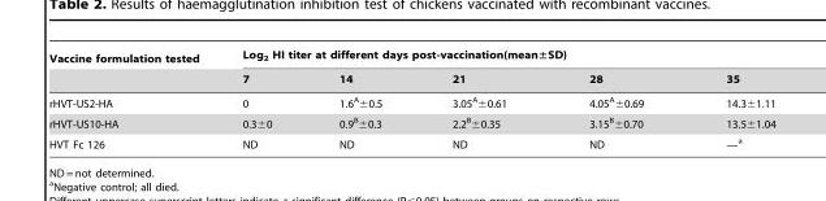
<table><thead><tr><td rowspan="2">Vaccine formulation tested</td><td colspan="5">Log<sub>2</sub> HI titer at different days post-vaccination(mean±SD)</td></tr><tr><td>7</td><td>14</td><td>21</td><td>28</td><td>35</td></tr></thead><tbody><tr><td>rHVT-US2-HA</td><td>0</td><td>1.6<sup>A</sup>±0.5</td><td>3.05<sup>A</sup>±0.61</td><td>4.05<sup>A</sup>±0.69</td><td>14.3±1.11</td></tr><tr><td>rHVT-US10-HA</td><td>0.3±0</td><td>0.9<sup>B</sup>±0.3</td><td>2.2<sup>B</sup>±0.35</td><td>3.15<sup>B</sup>±0.70</td><td>13.5±1.04</td></tr><tr><td>HVT Fc 126</td><td>ND</td><td>ND</td><td>ND</td><td>ND</td><td>—a</td></tr></tbody></table>